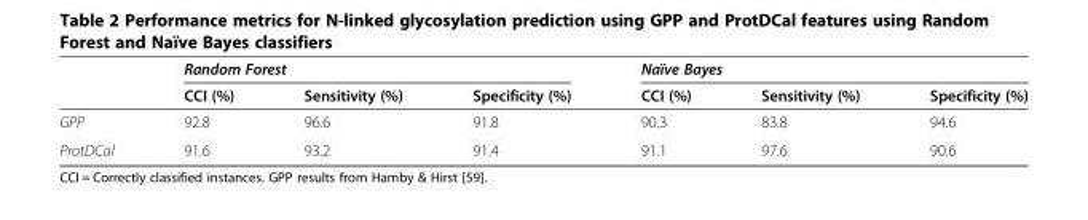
<table><thead><tr><td rowspan="2"></td><td colspan="3">Random Forest</td><td colspan="3">Naïve Bayes</td></tr><tr><td>CCI (%)</td><td>Sensitivity (%)</td><td>Specificity (%)</td><td>CCI (%)</td><td>Sensitivity (%)</td><td>Specificity (%)</td></tr></thead><tbody><tr><td>GPP</td><td>92.8</td><td>96.6</td><td>91.8</td><td>90.3</td><td>83.8</td><td>94.6</td></tr><tr><td>ProtDCal</td><td>91.6</td><td>93.2</td><td>91.4</td><td>91.1</td><td>97.6</td><td>90.6</td></tr></tbody></table>